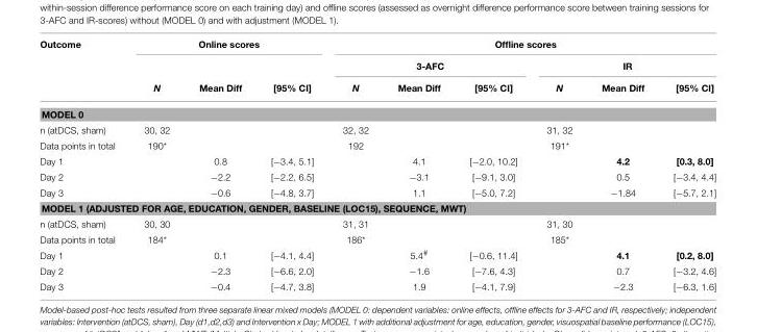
<table><thead><tr><td rowspan="3">Outcome</td><td colspan="3">Online scores</td><td colspan="6">Offline scores</td></tr><tr><td rowspan="2">N</td><td rowspan="2">Mean Diff</td><td rowspan="2">[95% CI]</td><td colspan="3">3-AFC</td><td colspan="3">IR</td></tr><tr><td>N</td><td>Mean Diff</td><td>[95% CI]</td><td>N</td><td>Mean Diff</td><td>[95% CI]</td></tr></thead><tbody><tr><td colspan="10">MODEL 0</td></tr><tr><td>n (atDCS, sham)</td><td>30, 32</td><td></td><td></td><td>32, 32</td><td></td><td></td><td>31, 32</td><td></td><td></td></tr><tr><td>Data points in total</td><td>190*</td><td></td><td></td><td>192</td><td></td><td></td><td>191*</td><td></td><td></td></tr><tr><td>Day 1</td><td></td><td>0.8</td><td>[−3.4, 5.1]</td><td></td><td>4.1</td><td>[−2.0, 10.2]</td><td></td><td>4.2</td><td>[0.3, 8.0]</td></tr><tr><td>Day 2</td><td></td><td>−2.2</td><td>[−2.2, 6.5]</td><td></td><td>−3.1</td><td>[−9.1, 3.0]</td><td></td><td>0.5</td><td>[−3.4, 4.4]</td></tr><tr><td>Day 3</td><td></td><td>−0.6</td><td>[−4.8, 3.7]</td><td></td><td>1.1</td><td>[−5.0, 7.2]</td><td></td><td>−1.84</td><td>[−5.7, 2.1]</td></tr><tr><td colspan="10">MODEL 1 (ADJUSTED FOR AGE, EDUCATION, GENDER, BASELINE (LOC15), SEQUENCE, MWT)</td></tr><tr><td>n (atDCS, sham)</td><td>30, 30</td><td></td><td></td><td>31, 31</td><td></td><td></td><td>31, 30</td><td></td><td></td></tr><tr><td>Data points in total</td><td>184*</td><td></td><td></td><td>186*</td><td></td><td></td><td>185*</td><td></td><td></td></tr><tr><td>Day 1</td><td></td><td>0.1</td><td>[−4.1, 4.4]</td><td></td><td>5.4<sup>#</sup></td><td>[−0.6, 11.4]</td><td></td><td>4.1</td><td>[0.2, 8.0]</td></tr><tr><td>Day 2</td><td></td><td>−2.3</td><td>[−6.6, 2.0]</td><td></td><td>−1.6</td><td>[−7.6, 4.3]</td><td></td><td>0.7</td><td>[−3.2, 4.6]</td></tr><tr><td>Day 3</td><td></td><td>−0.4</td><td>[−4.7, 3.8]</td><td></td><td>1.9</td><td>[−4.1, 7.9]</td><td></td><td>−2.3</td><td>[−6.3, 1.6]</td></tr></tbody></table>